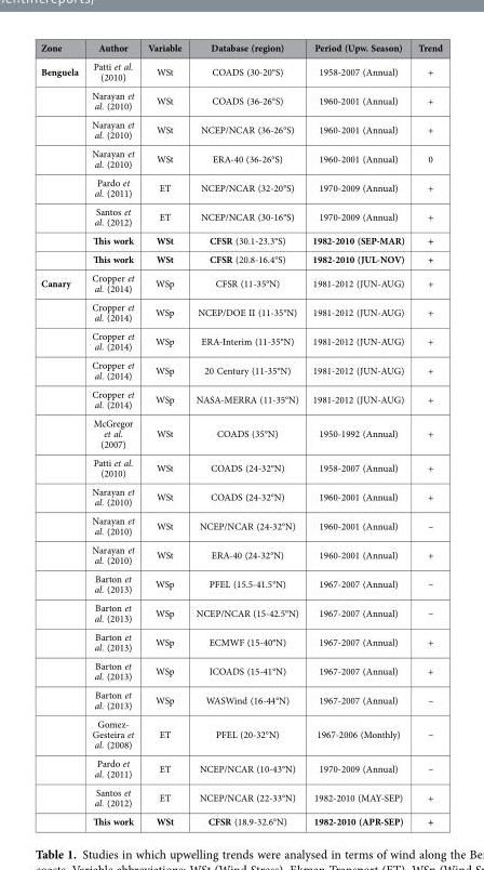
<table><thead><tr><td>Zone</td><td>Author</td><td>Variable</td><td>Database (region)</td><td>Period (Upw. Season)</td><td>Trend</td></tr></thead><tbody><tr><td rowspan="8">Benguela</td><td>Patti et al. (2010)</td><td>WSt</td><td>COADS (30-20°S)</td><td>1958-2007 (Annual)</td><td>+</td></tr><tr><td>Narayan et al. (2010)</td><td>WSt</td><td>COADS (36-26°S)</td><td>1960-2001 (Annual)</td><td>+</td></tr><tr><td>Narayan et al. (2010)</td><td>WSt</td><td>NCEP/NCAR (36-26°S)</td><td>1960-2001 (Annual)</td><td>+</td></tr><tr><td>Narayan et al. (2010)</td><td>WSt</td><td>ERA-40 (36-26°S)</td><td>1960-2001 (Annual)</td><td>0</td></tr><tr><td>Pardo et al. (2011)</td><td>ET</td><td>NCEP/NCAR (32-20°S)</td><td>1970-2009 (Annual)</td><td>+</td></tr><tr><td>Santos et al. (2012)</td><td>ET</td><td>NCEP/NCAR (30-16°S)</td><td>1970-2009 (Annual)</td><td>+</td></tr><tr><td>This work</td><td>WSt</td><td>CFSR (30.1-23.3°S)</td><td>1982-2010 (SEP-MAR)</td><td>+</td></tr><tr><td>This work</td><td>WSt</td><td>CFSR (20.8-16.4°S)</td><td>1982-2010 (JUL-NOV)</td><td>+</td></tr><tr><td rowspan="19">Canary</td><td>Cropper et al. (2014)</td><td>WSp</td><td>CFSR (11-35°N)</td><td>1981-2012 (JUN-AUG)</td><td>+</td></tr><tr><td>Cropper et al. (2014)</td><td>WSp</td><td>NCEP/DOE II (11-35°N)</td><td>1981-2012 (JUN-AUG)</td><td>+</td></tr><tr><td>Cropper et al. (2014)</td><td>WSp</td><td>ERA-Interim (11-35°N)</td><td>1981-2012 (JUN-AUG)</td><td>+</td></tr><tr><td>Cropper et al. (2014)</td><td>WSp</td><td>20 Century (11-35°N)</td><td>1981-2012 (JUN-AUG)</td><td>+</td></tr><tr><td>Cropper et al. (2014)</td><td>WSp</td><td>NASA-MERRA (11-35°N)</td><td>1981-2012 (JUN-AUG)</td><td>+</td></tr><tr><td>McGregor et al. (2007)</td><td>WSt</td><td>COADS (35°N)</td><td>1950-1992 (Annual)</td><td>+</td></tr><tr><td>Patti et al. (2010)</td><td>WSt</td><td>COADS (24-32°N)</td><td>1958-2007 (Annual)</td><td>+</td></tr><tr><td>Narayan et al. (2010)</td><td>WSt</td><td>COADS (24-32°N)</td><td>1960-2001 (Annual)</td><td>+</td></tr><tr><td>Narayan et al. (2010)</td><td>WSt</td><td>NCEP/NCAR (24-32°N)</td><td>1960-2001 (Annual)</td><td>−</td></tr><tr><td>Narayan et al. (2010)</td><td>WSt</td><td>ERA-40 (24-32°N)</td><td>1960-2001 (Annual)</td><td>+</td></tr><tr><td>Barton et al. (2013)</td><td>WSp</td><td>PFEL (15.5-41.5°N)</td><td>1967-2007 (Annual)</td><td>−</td></tr><tr><td>Barton et al. (2013)</td><td>WSp</td><td>NCEP/NCAR (15-42.5°N)</td><td>1967-2007 (Annual)</td><td>−</td></tr><tr><td>Barton et al. (2013)</td><td>WSp</td><td>ECMWF (15-40°N)</td><td>1967-2007 (Annual)</td><td>+</td></tr><tr><td>Barton et al. (2013)</td><td>WSp</td><td>ICOADS (15-41°N)</td><td>1967-2007 (Annual)</td><td>+</td></tr><tr><td>Barton et al. (2013)</td><td>WSp</td><td>WASWind (16-44°N)</td><td>1967-2007 (Annual)</td><td>−</td></tr><tr><td>Gomez- Gesteira et al. (2008)</td><td>ET</td><td>PFEL (20-32°N)</td><td>1967-2006 (Monthly)</td><td>−</td></tr><tr><td>Pardo et al. (2011)</td><td>ET</td><td>NCEP/NCAR (10-43°N)</td><td>1970-2009 (Annual)</td><td>−</td></tr><tr><td>Santos et al. (2012)</td><td>ET</td><td>NCEP/NCAR (22-33°N)</td><td>1982-2010 (MAY-SEP)</td><td>+</td></tr><tr><td>This work</td><td>WSt</td><td>CFSR (18.9-32.6°N)</td><td>1982-2010 (APR-SEP)</td><td>+</td></tr></tbody></table>